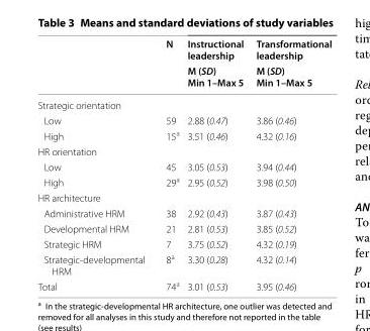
<table><thead><tr><td rowspan="2"></td><td rowspan="2">N</td><td rowspan="2">Instructional leadership M (SD) Min 1–Max 5</td><td rowspan="2">Transformational leadership M (SD) Min 1–Max 5</td></tr><tr></tr></thead><tbody><tr><td colspan="4">Strategic orientation</td></tr><tr><td>Low</td><td>59</td><td>2.88 (0.47)</td><td>3.86 (0.46)</td></tr><tr><td>High</td><td>15<sup>a</sup></td><td>3.51 (0.46)</td><td>4.32 (0.16)</td></tr><tr><td colspan="4">HR orientation</td></tr><tr><td>Low</td><td>45</td><td>3.05 (0.53)</td><td>3.94 (0.44)</td></tr><tr><td>High</td><td>29<sup>a</sup></td><td>2.95 (0.52)</td><td>3.98 (0.50)</td></tr><tr><td colspan="4">HR architecture</td></tr><tr><td>Administrative HRM</td><td>38</td><td>2.92 (0.43)</td><td>3.87 (0.43)</td></tr><tr><td>Developmental HRM</td><td>21</td><td>2.81 (0.53)</td><td>3.85 (0.52)</td></tr><tr><td>Strategic HRM</td><td>7</td><td>3.75 (0.52)</td><td>4.32 (0.19)</td></tr><tr><td>Strategic-developmental HRM</td><td>8<sup>a</sup></td><td>3.30 (0.28)</td><td>4.32 (0.14)</td></tr><tr><td>Total</td><td>74<sup>a</sup></td><td>3.01 (0.53)</td><td>3.95 (0.46)</td></tr></tbody></table>